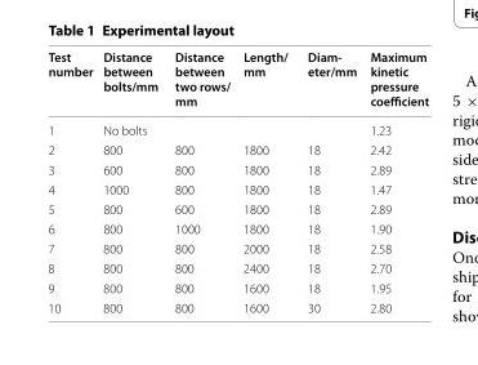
<table><thead><tr><td>Test number</td><td>Distance between bolts/mm</td><td>Distance between two rows/ mm</td><td>Length/ mm</td><td>Diam‑ eter/mm</td><td>Maximum kinetic pressure coefficient</td></tr></thead><tbody><tr><td>1</td><td>No bolts</td><td></td><td></td><td></td><td>1.23</td></tr><tr><td>2</td><td>800</td><td>800</td><td>1800</td><td>18</td><td>2.42</td></tr><tr><td>3</td><td>600</td><td>800</td><td>1800</td><td>18</td><td>2.89</td></tr><tr><td>4</td><td>1000</td><td>800</td><td>1800</td><td>18</td><td>1.47</td></tr><tr><td>5</td><td>800</td><td>600</td><td>1800</td><td>18</td><td>2.89</td></tr><tr><td>6</td><td>800</td><td>1000</td><td>1800</td><td>18</td><td>1.90</td></tr><tr><td>7</td><td>800</td><td>800</td><td>2000</td><td>18</td><td>2.58</td></tr><tr><td>8</td><td>800</td><td>800</td><td>2400</td><td>18</td><td>2.70</td></tr><tr><td>9</td><td>800</td><td>800</td><td>1600</td><td>18</td><td>1.95</td></tr><tr><td>10</td><td>800</td><td>800</td><td>1600</td><td>30</td><td>2.80</td></tr></tbody></table>